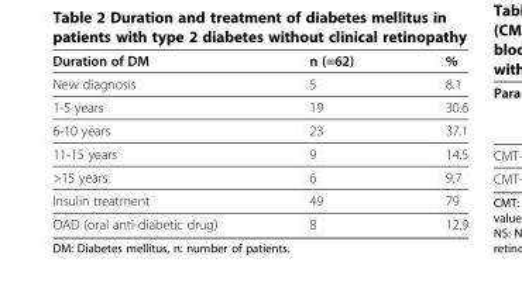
<table><thead><tr><td>Duration of DM</td><td>n (=62)</td><td>%</td></tr></thead><tbody><tr><td>New diagnosis</td><td>5</td><td>8.1</td></tr><tr><td>1-5 years</td><td>19</td><td>30.6</td></tr><tr><td>6-10 years</td><td>23</td><td>37.1</td></tr><tr><td>11-15 years</td><td>9</td><td>14.5</td></tr><tr><td>&gt;15 years</td><td>6</td><td>9.7</td></tr><tr><td>Insulin treatment</td><td>49</td><td>79</td></tr><tr><td>OAD (oral anti-diabetic drug)</td><td>8</td><td>12.9</td></tr></tbody></table>